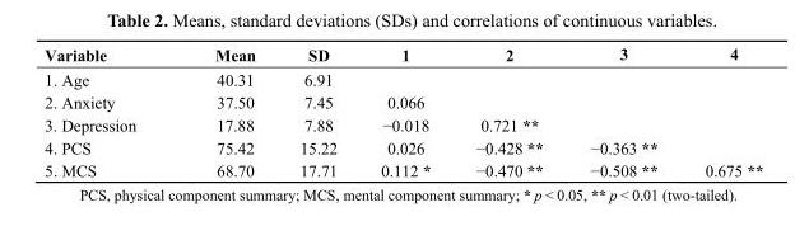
<table><thead><tr><td>Variable</td><td>Mean</td><td>SD</td><td>1</td><td>2</td><td>3</td><td>4</td></tr></thead><tbody><tr><td>1. Age</td><td>40.31</td><td>6.91</td><td></td><td></td><td></td><td></td></tr><tr><td>2. Anxiety</td><td>37.50</td><td>7.45</td><td>0.066</td><td></td><td></td><td></td></tr><tr><td>3. Depression</td><td>17.88</td><td>7.88</td><td>−0.018</td><td>0.721 **</td><td></td><td></td></tr><tr><td>4. PCS</td><td>75.42</td><td>15.22</td><td>0.026</td><td>−0.428 **</td><td>−0.363 **</td><td></td></tr><tr><td>5. MCS</td><td>68.70</td><td>17.71</td><td>0.112 *</td><td>−0.470 **</td><td>−0.508 **</td><td>0.675 **</td></tr></tbody></table>